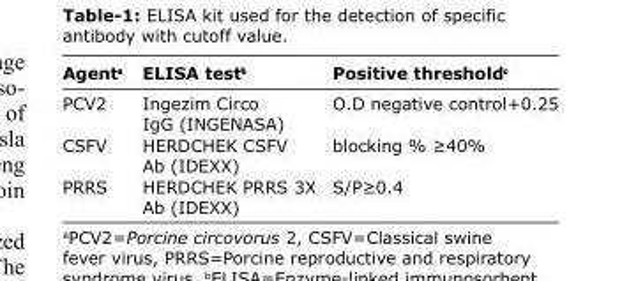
<table><thead><tr><td>Agent<sup>a</sup></td><td>ELISA test<sup>b</sup></td><td>Positive threshold<sup>c</sup></td></tr></thead><tbody><tr><td>PCV2</td><td>Ingezim Circo IgG (INGENASA)</td><td>O.D negative control+0.25</td></tr><tr><td>CSFV</td><td>HERDCHEK CSFV Ab (IDEXX)</td><td>blocking % ≥40%</td></tr><tr><td>PRRS</td><td>HERDCHEK PRRS 3X Ab (IDEXX)</td><td>S/P≥0.4</td></tr></tbody></table>